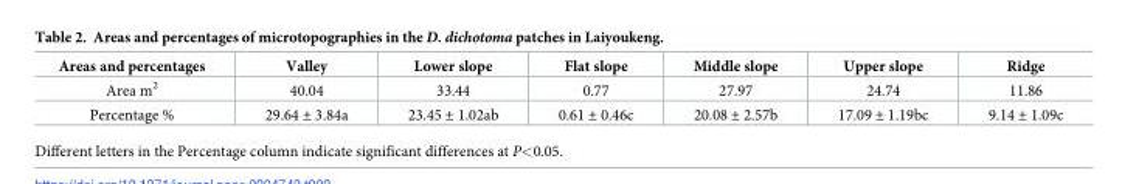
<table><thead><tr><td>Areas and percentages</td><td>Valley</td><td>Lower slope</td><td>Flat slope</td><td>Middle slope</td><td>Upper slope</td><td>Ridge</td></tr></thead><tbody><tr><td>Area m<sup>2</sup></td><td>40.04</td><td>33.44</td><td>0.77</td><td>27.97</td><td>24.74</td><td>11.86</td></tr><tr><td>Percentage %</td><td>29.64 ± 3.84a</td><td>23.45 ± 1.02ab</td><td>0.61 ± 0.46c</td><td>20.08 ± 2.57b</td><td>17.09 ± 1.19bc</td><td>9.14 ± 1.09c</td></tr></tbody></table>